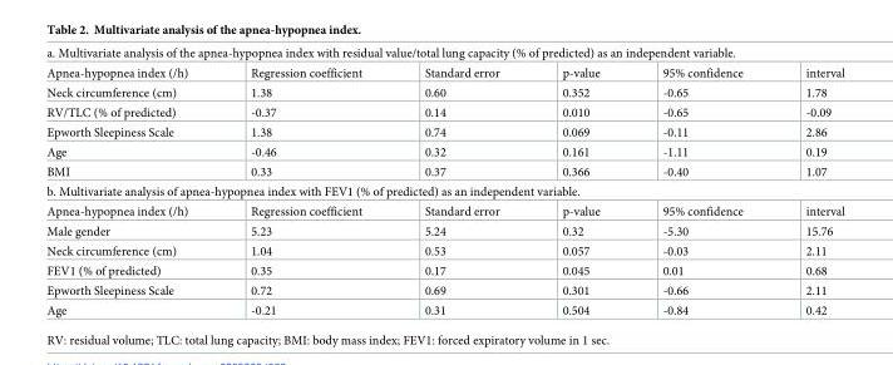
<table><tbody><tr><td colspan="6">a. Multivariate analysis of the apnea-hypopnea index with residual value/total lung capacity (% of predicted) as an independent variable.</td></tr><tr><td>Apnea-hypopnea index (/h)</td><td>Regression coefficient</td><td>Standard error</td><td>p-value</td><td>95% confidence</td><td>interval</td></tr><tr><td>Neck circumference (cm)</td><td>1.38</td><td>0.60</td><td>0.352</td><td>-0.65</td><td>1.78</td></tr><tr><td>RV/TLC (% of predicted)</td><td>-0.37</td><td>0.14</td><td>0.010</td><td>-0.65</td><td>-0.09</td></tr><tr><td>Epworth Sleepiness Scale</td><td>1.38</td><td>0.74</td><td>0.069</td><td>-0.11</td><td>2.86</td></tr><tr><td>Age</td><td>-0.46</td><td>0.32</td><td>0.161</td><td>-1.11</td><td>0.19</td></tr><tr><td>BMI</td><td>0.33</td><td>0.37</td><td>0.366</td><td>-0.40</td><td>1.07</td></tr><tr><td colspan="6">b. Multivariate analysis of apnea-hypopnea index with FEV1 (% of predicted) as an independent variable.</td></tr><tr><td>Apnea-hypopnea index (/h)</td><td>Regression coefficient</td><td>Standard error</td><td>p-value</td><td>95% confidence</td><td>interval</td></tr><tr><td>Male gender</td><td>5.23</td><td>5.24</td><td>0.32</td><td>-5.30</td><td>15.76</td></tr><tr><td>Neck circumference (cm)</td><td>1.04</td><td>0.53</td><td>0.057</td><td>-0.03</td><td>2.11</td></tr><tr><td>FEV1 (% of predicted)</td><td>0.35</td><td>0.17</td><td>0.045</td><td>0.01</td><td>0.68</td></tr><tr><td>Epworth Sleepiness Scale</td><td>0.72</td><td>0.69</td><td>0.301</td><td>-0.66</td><td>2.11</td></tr><tr><td>Age</td><td>-0.21</td><td>0.31</td><td>0.504</td><td>-0.84</td><td>0.42</td></tr></tbody></table>